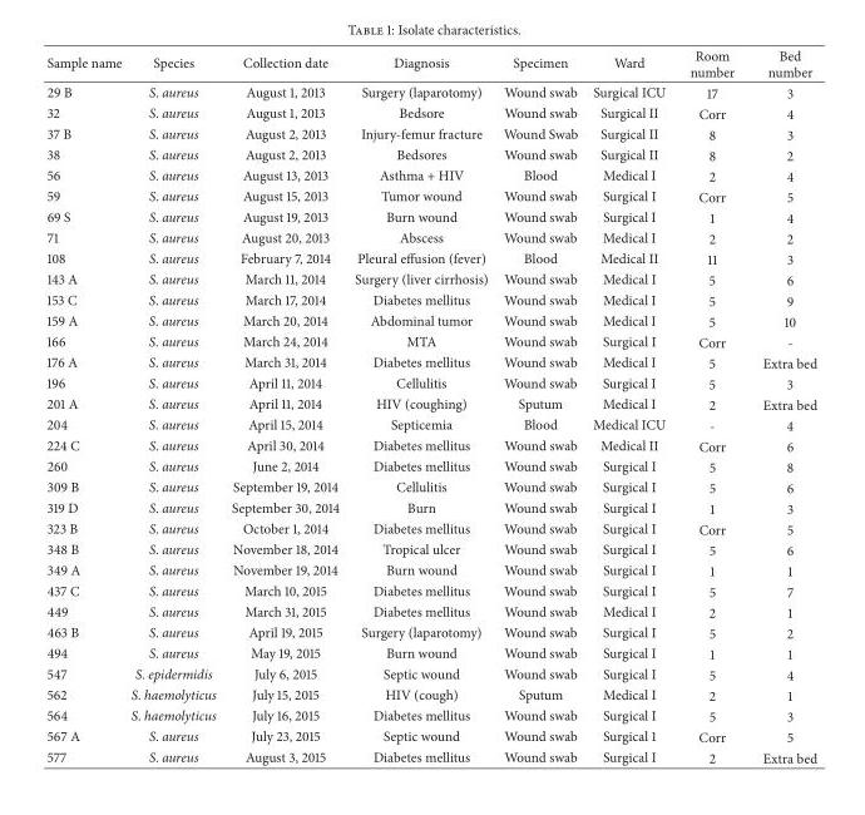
<table><thead><tr><td>Sample name</td><td>Species</td><td>Collection date</td><td>Diagnosis</td><td>Specimen</td><td>Ward</td><td>Room number</td><td>Bed number</td></tr></thead><tbody><tr><td>29 B</td><td>S. aureus</td><td>August 1, 2013</td><td>Surgery (laparotomy)</td><td>Wound swab</td><td>Surgical ICU</td><td>17</td><td>3</td></tr><tr><td>32</td><td>S. aureus</td><td>August 1, 2013</td><td>Bedsore</td><td>Wound swab</td><td>Surgical II</td><td>Corr</td><td>4</td></tr><tr><td>37 B</td><td>S. aureus</td><td>August 2, 2013</td><td>Injury-femur fracture</td><td>Wound Swab</td><td>Surgical II</td><td>8</td><td>3</td></tr><tr><td>38</td><td>S. aureus</td><td>August 2, 2013</td><td>Bedsores</td><td>Wound swab</td><td>Surgical II</td><td>8</td><td>2</td></tr><tr><td>56</td><td>S. aureus</td><td>August 13, 2013</td><td>Asthma + HIV</td><td>Blood</td><td>Medical I</td><td>2</td><td>4</td></tr><tr><td>59</td><td>S. aureus</td><td>August 15, 2013</td><td>Tumor wound</td><td>Wound swab</td><td>Surgical I</td><td>Corr</td><td>5</td></tr><tr><td>69 S</td><td>S. aureus</td><td>August 19, 2013</td><td>Burn wound</td><td>Wound swab</td><td>Surgical I</td><td>1</td><td>4</td></tr><tr><td>71</td><td>S. aureus</td><td>August 20, 2013</td><td>Abscess</td><td>Wound swab</td><td>Medical I</td><td>2</td><td>2</td></tr><tr><td>108</td><td>S. aureus</td><td>February 7, 2014</td><td>Pleural effusion (fever)</td><td>Blood</td><td>Medical II</td><td>11</td><td>3</td></tr><tr><td>143 A</td><td>S. aureus</td><td>March 11, 2014</td><td>Surgery (liver cirrhosis)</td><td>Wound swab</td><td>Medical I</td><td>5</td><td>6</td></tr><tr><td>153 C</td><td>S. aureus</td><td>March 17, 2014</td><td>Diabetes mellitus</td><td>Wound swab</td><td>Medical I</td><td>5</td><td>9</td></tr><tr><td>159 A</td><td>S. aureus</td><td>March 20, 2014</td><td>Abdominal tumor</td><td>Wound swab</td><td>Medical I</td><td>5</td><td>10</td></tr><tr><td>166</td><td>S. aureus</td><td>March 24, 2014</td><td>MTA</td><td>Wound swab</td><td>Surgical I</td><td>Corr</td><td>-</td></tr><tr><td>176 A</td><td>S. aureus</td><td>March 31, 2014</td><td>Diabetes mellitus</td><td>Wound swab</td><td>Medical I</td><td>5</td><td>Extra bed</td></tr><tr><td>196</td><td>S. aureus</td><td>April 11, 2014</td><td>Cellulitis</td><td>Wound swab</td><td>Surgical I</td><td>5</td><td>3</td></tr><tr><td>201 A</td><td>S. aureus</td><td>April 11, 2014</td><td>HIV (coughing)</td><td>Sputum</td><td>Medical I</td><td>2</td><td>Extra bed</td></tr><tr><td>204</td><td>S. aureus</td><td>April 15, 2014</td><td>Septicemia</td><td>Blood</td><td>Medical ICU</td><td>-</td><td>4</td></tr><tr><td>224 C</td><td>S. aureus</td><td>April 30, 2014</td><td>Diabetes mellitus</td><td>Wound swab</td><td>Medical II</td><td>Corr</td><td>6</td></tr><tr><td>260</td><td>S. aureus</td><td>June 2, 2014</td><td>Diabetes mellitus</td><td>Wound swab</td><td>Surgical I</td><td>5</td><td>8</td></tr><tr><td>309 B</td><td>S. aureus</td><td>September 19, 2014</td><td>Cellulitis</td><td>Wound swab</td><td>Surgical I</td><td>5</td><td>6</td></tr><tr><td>319 D</td><td>S. aureus</td><td>September 30, 2014</td><td>Burn</td><td>Wound swab</td><td>Surgical I</td><td>1</td><td>3</td></tr><tr><td>323 B</td><td>S. aureus</td><td>October 1, 2014</td><td>Diabetes mellitus</td><td>Wound swab</td><td>Surgical I</td><td>Corr</td><td>5</td></tr><tr><td>348 B</td><td>S. aureus</td><td>November 18, 2014</td><td>Tropical ulcer</td><td>Wound swab</td><td>Surgical I</td><td>5</td><td>6</td></tr><tr><td>349 A</td><td>S. aureus</td><td>November 19, 2014</td><td>Burn wound</td><td>Wound swab</td><td>Surgical I</td><td>1</td><td>1</td></tr><tr><td>437 C</td><td>S. aureus</td><td>March 10, 2015</td><td>Diabetes mellitus</td><td>Wound swab</td><td>Surgical I</td><td>5</td><td>7</td></tr><tr><td>449</td><td>S. aureus</td><td>March 31, 2015</td><td>Diabetes mellitus</td><td>Wound swab</td><td>Medical I</td><td>2</td><td>1</td></tr><tr><td>463 B</td><td>S. aureus</td><td>April 19, 2015</td><td>Surgery (laparotomy)</td><td>Wound swab</td><td>Surgical I</td><td>5</td><td>2</td></tr><tr><td>494</td><td>S. aureus</td><td>May 19, 2015</td><td>Burn wound</td><td>Wound swab</td><td>Surgical I</td><td>1</td><td>1</td></tr><tr><td>547</td><td>S. epidermidis</td><td>July 6, 2015</td><td>Septic wound</td><td>Wound swab</td><td>Surgical I</td><td>5</td><td>4</td></tr><tr><td>562</td><td>S. haemolyticus</td><td>July 15, 2015</td><td>HIV (cough)</td><td>Sputum</td><td>Medical I</td><td>2</td><td>1</td></tr><tr><td>564</td><td>S. haemolyticus</td><td>July 16, 2015</td><td>Diabetes mellitus</td><td>Wound swab</td><td>Surgical I</td><td>5</td><td>3</td></tr><tr><td>567 A</td><td>S. aureus</td><td>July 23, 2015</td><td>Septic wound</td><td>Wound swab</td><td>Surgical 1</td><td>Corr</td><td>5</td></tr><tr><td>577</td><td>S. aureus</td><td>August 3, 2015</td><td>Diabetes mellitus</td><td>Wound swab</td><td>Surgical I</td><td>2</td><td>Extra bed</td></tr></tbody></table>